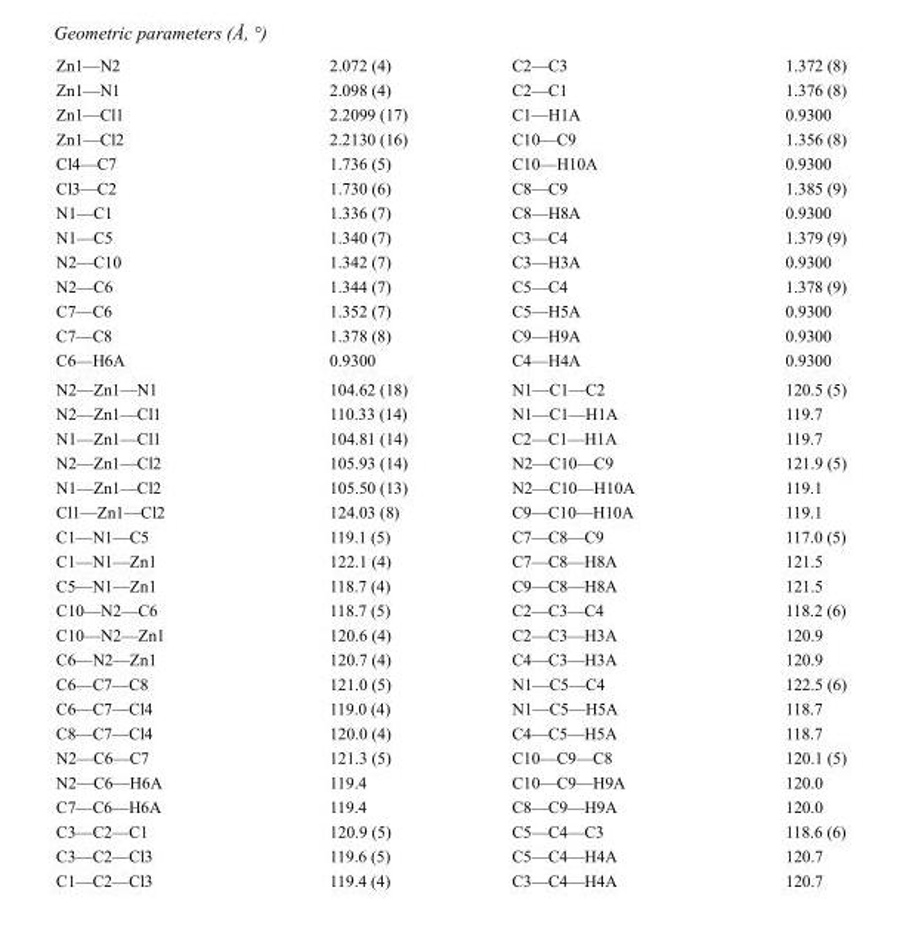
<table><tbody><tr><td>Zn1—N2</td><td>2.072 (4)</td><td>C2—C3</td><td>1.372 (8)</td></tr><tr><td>Zn1—N1</td><td>2.098 (4)</td><td>C2—C1</td><td>1.376 (8)</td></tr><tr><td>Zn1—Cl1</td><td>2.2099 (17)</td><td>C1—H1A</td><td>0.9300</td></tr><tr><td>Zn1—Cl2</td><td>2.2130 (16)</td><td>C10—C9</td><td>1.356 (8)</td></tr><tr><td>Cl4—C7</td><td>1.736 (5)</td><td>C10—H10A</td><td>0.9300</td></tr><tr><td>Cl3—C2</td><td>1.730 (6)</td><td>C8—C9</td><td>1.385 (9)</td></tr><tr><td>N1—C1</td><td>1.336 (7)</td><td>C8—H8A</td><td>0.9300</td></tr><tr><td>N1—C5</td><td>1.340 (7)</td><td>C3—C4</td><td>1.379 (9)</td></tr><tr><td>N2—C10</td><td>1.342 (7)</td><td>C3—H3A</td><td>0.9300</td></tr><tr><td>N2—C6</td><td>1.344 (7)</td><td>C5—C4</td><td>1.378 (9)</td></tr><tr><td>C7—C6</td><td>1.352 (7)</td><td>C5—H5A</td><td>0.9300</td></tr><tr><td>C7—C8</td><td>1.378 (8)</td><td>C9—H9A</td><td>0.9300</td></tr><tr><td>C6—H6A</td><td>0.9300</td><td>C4—H4A</td><td>0.9300</td></tr><tr><td>N2—Zn1—N1</td><td>104.62 (18)</td><td>N1—C1—C2</td><td>120.5 (5)</td></tr><tr><td>N2—Zn1—Cl1</td><td>110.33 (14)</td><td>N1—C1—H1A</td><td>119.7</td></tr><tr><td>N1—Zn1—Cl1</td><td>104.81 (14)</td><td>C2—C1—H1A</td><td>119.7</td></tr><tr><td>N2—Zn1—Cl2</td><td>105.93 (14)</td><td>N2—C10—C9</td><td>121.9 (5)</td></tr><tr><td>N1—Zn1—Cl2</td><td>105.50 (13)</td><td>N2—C10—H10A</td><td>119.1</td></tr><tr><td>Cl1—Zn1—Cl2</td><td>124.03 (8)</td><td>C9—C10—H10A</td><td>119.1</td></tr><tr><td>C1—N1—C5</td><td>119.1 (5)</td><td>C7—C8—C9</td><td>117.0 (5)</td></tr><tr><td>C1—N1—Zn1</td><td>122.1 (4)</td><td>C7—C8—H8A</td><td>121.5</td></tr><tr><td>C5—N1—Zn1</td><td>118.7 (4)</td><td>C9—C8—H8A</td><td>121.5</td></tr><tr><td>C10—N2—C6</td><td>118.7 (5)</td><td>C2—C3—C4</td><td>118.2 (6)</td></tr><tr><td>C10—N2—Zn1</td><td>120.6 (4)</td><td>C2—C3—H3A</td><td>120.9</td></tr><tr><td>C6—N2—Zn1</td><td>120.7 (4)</td><td>C4—C3—H3A</td><td>120.9</td></tr><tr><td>C6—C7—C8</td><td>121.0 (5)</td><td>N1—C5—C4</td><td>122.5 (6)</td></tr><tr><td>C6—C7—Cl4</td><td>119.0 (4)</td><td>N1—C5—H5A</td><td>118.7</td></tr><tr><td>C8—C7—Cl4</td><td>120.0 (4)</td><td>C4—C5—H5A</td><td>118.7</td></tr><tr><td>N2—C6—C7</td><td>121.3 (5)</td><td>C10—C9—C8</td><td>120.1 (5)</td></tr><tr><td>N2—C6—H6A</td><td>119.4</td><td>C10—C9—H9A</td><td>120.0</td></tr><tr><td>C7—C6—H6A</td><td>119.4</td><td>C8—C9—H9A</td><td>120.0</td></tr><tr><td>C3—C2—C1</td><td>120.9 (5)</td><td>C5—C4—C3</td><td>118.6 (6)</td></tr><tr><td>C3—C2—Cl3</td><td>119.6 (5)</td><td>C5—C4—H4A</td><td>120.7</td></tr><tr><td>C1—C2—Cl3</td><td>119.4 (4)</td><td>C3—C4—H4A</td><td>120.7</td></tr></tbody></table>